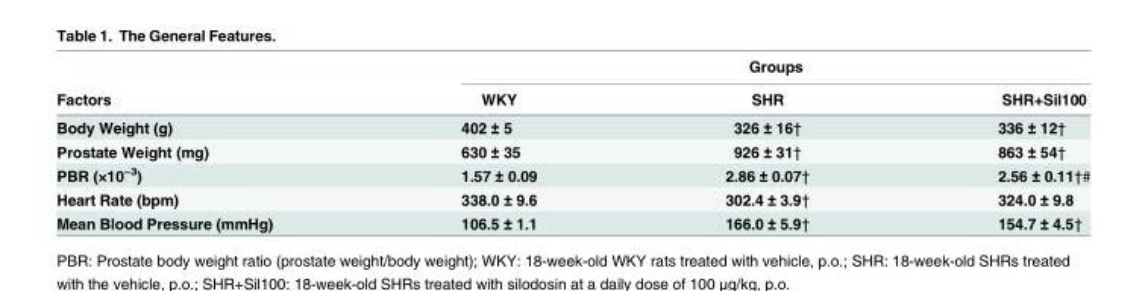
<table><thead><tr><td rowspan="2">Factors</td><td colspan="3">Groups</td></tr><tr><td>WKY</td><td>SHR</td><td>SHR+Sil100</td></tr></thead><tbody><tr><td>Body Weight (g)</td><td>402 ± 5</td><td>326 ± 16†</td><td>336 ± 12†</td></tr><tr><td>Prostate Weight (mg)</td><td>630 ± 35</td><td>926 ± 31†</td><td>863 ± 54†</td></tr><tr><td>PBR (×10<sup>−3</sup>)</td><td>1.57 ± 0.09</td><td>2.86 ± 0.07†</td><td>2.56 ± 0.11†#</td></tr><tr><td>Heart Rate (bpm)</td><td>338.0 ± 9.6</td><td>302.4 ± 3.9†</td><td>324.0 ± 9.8</td></tr><tr><td>Mean Blood Pressure (mmHg)</td><td>106.5 ± 1.1</td><td>166.0 ± 5.9†</td><td>154.7 ± 4.5†</td></tr></tbody></table>